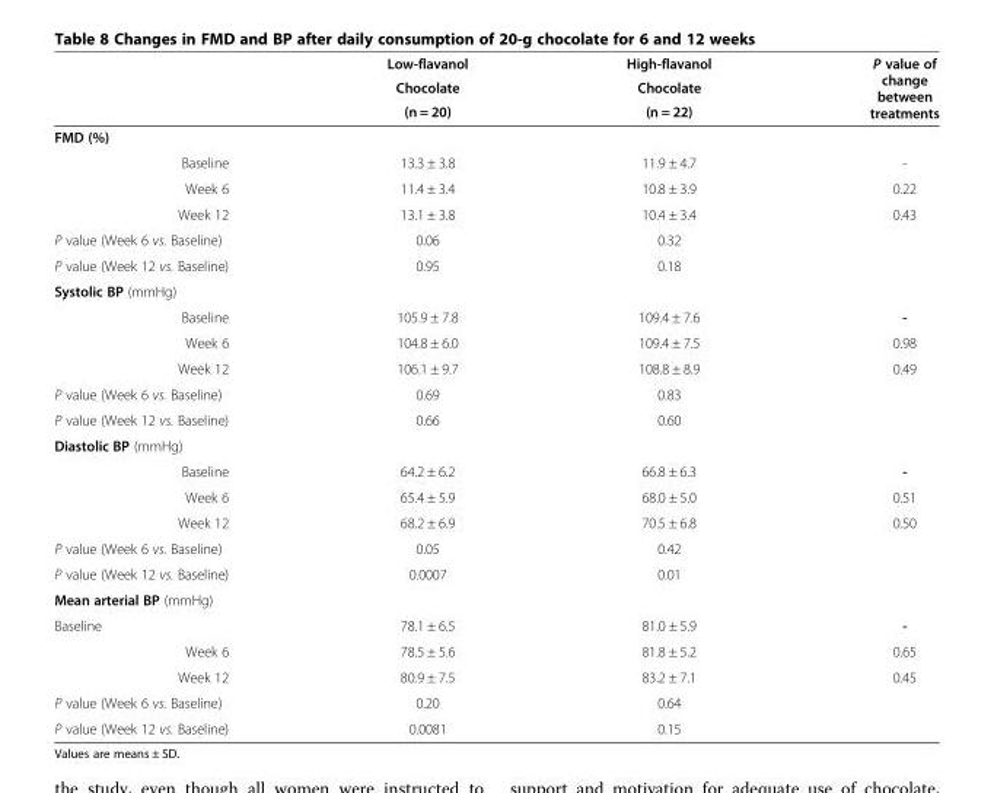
<table><thead><tr><td rowspan="3"></td><td rowspan="3">Low-flavanol Chocolate (n = 20)</td><td rowspan="3">High-flavanol Chocolate (n = 22)</td><td rowspan="3">P value of change between treatments</td></tr><tr></tr><tr></tr></thead><tbody><tr><td colspan="4">FMD (%)</td></tr><tr><td>Baseline</td><td>13.3 ± 3.8</td><td>11.9 ± 4.7</td><td>-</td></tr><tr><td>Week 6</td><td>11.4 ± 3.4</td><td>10.8 ± 3.9</td><td>0.22</td></tr><tr><td>Week 12</td><td>13.1 ± 3.8</td><td>10.4 ± 3.4</td><td>0.43</td></tr><tr><td>P value (Week 6 vs. Baseline)</td><td>0.06</td><td>0.32</td><td></td></tr><tr><td>P value (Week 12 vs. Baseline)</td><td>0.95</td><td>0.18</td><td></td></tr><tr><td colspan="4">Systolic BP (mmHg)</td></tr><tr><td>Baseline</td><td>105.9 ± 7.8</td><td>109.4 ± 7.6</td><td>-</td></tr><tr><td>Week 6</td><td>104.8 ± 6.0</td><td>109.4 ± 7.5</td><td>0.98</td></tr><tr><td>Week 12</td><td>106.1 ± 9.7</td><td>108.8 ± 8.9</td><td>0.49</td></tr><tr><td>P value (Week 6 vs. Baseline)</td><td>0.69</td><td>0.83</td><td></td></tr><tr><td>P value (Week 12 vs. Baseline)</td><td>0.66</td><td>0.60</td><td></td></tr><tr><td colspan="4">Diastolic BP (mmHg)</td></tr><tr><td>Baseline</td><td>64.2 ± 6.2</td><td>66.8 ± 6.3</td><td>-</td></tr><tr><td>Week 6</td><td>65.4 ± 5.9</td><td>68.0 ± 5.0</td><td>0.51</td></tr><tr><td>Week 12</td><td>68.2 ± 6.9</td><td>70.5 ± 6.8</td><td>0.50</td></tr><tr><td>P value (Week 6 vs. Baseline)</td><td>0.05</td><td>0.42</td><td></td></tr><tr><td>P value (Week 12 vs. Baseline)</td><td>0.0007</td><td>0.01</td><td></td></tr><tr><td colspan="4">Mean arterial BP (mmHg)</td></tr><tr><td>Baseline</td><td>78.1 ± 6.5</td><td>81.0 ± 5.9</td><td>-</td></tr><tr><td>Week 6</td><td>78.5 ± 5.6</td><td>81.8 ± 5.2</td><td>0.65</td></tr><tr><td>Week 12</td><td>80.9 ± 7.5</td><td>83.2 ± 7.1</td><td>0.45</td></tr><tr><td>P value (Week 6 vs. Baseline)</td><td>0.20</td><td>0.64</td><td></td></tr><tr><td>P value (Week 12 vs. Baseline)</td><td>0.0081</td><td>0.15</td><td></td></tr></tbody></table>